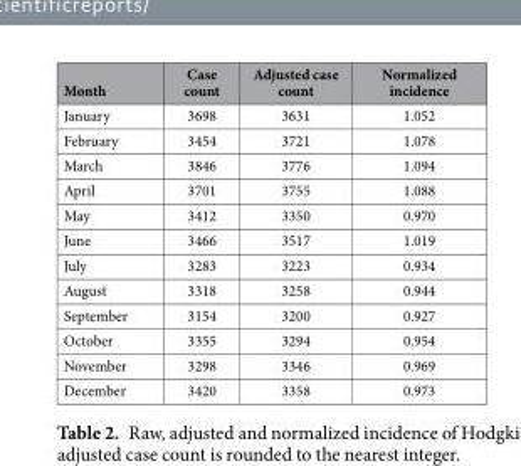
<table><thead><tr><td>Month</td><td>Case count</td><td>Adjusted case count</td><td>Normalized incidence</td></tr></thead><tbody><tr><td>January</td><td>3698</td><td>3631</td><td>1.052</td></tr><tr><td>February</td><td>3454</td><td>3721</td><td>1.078</td></tr><tr><td>March</td><td>3846</td><td>3776</td><td>1.094</td></tr><tr><td>April</td><td>3701</td><td>3755</td><td>1.088</td></tr><tr><td>May</td><td>3412</td><td>3350</td><td>0.970</td></tr><tr><td>June</td><td>3466</td><td>3517</td><td>1.019</td></tr><tr><td>July</td><td>3283</td><td>3223</td><td>0.934</td></tr><tr><td>August</td><td>3318</td><td>3258</td><td>0.944</td></tr><tr><td>September</td><td>3154</td><td>3200</td><td>0.927</td></tr><tr><td>October</td><td>3355</td><td>3294</td><td>0.954</td></tr><tr><td>November</td><td>3298</td><td>3346</td><td>0.969</td></tr><tr><td>December</td><td>3420</td><td>3358</td><td>0.973</td></tr></tbody></table>